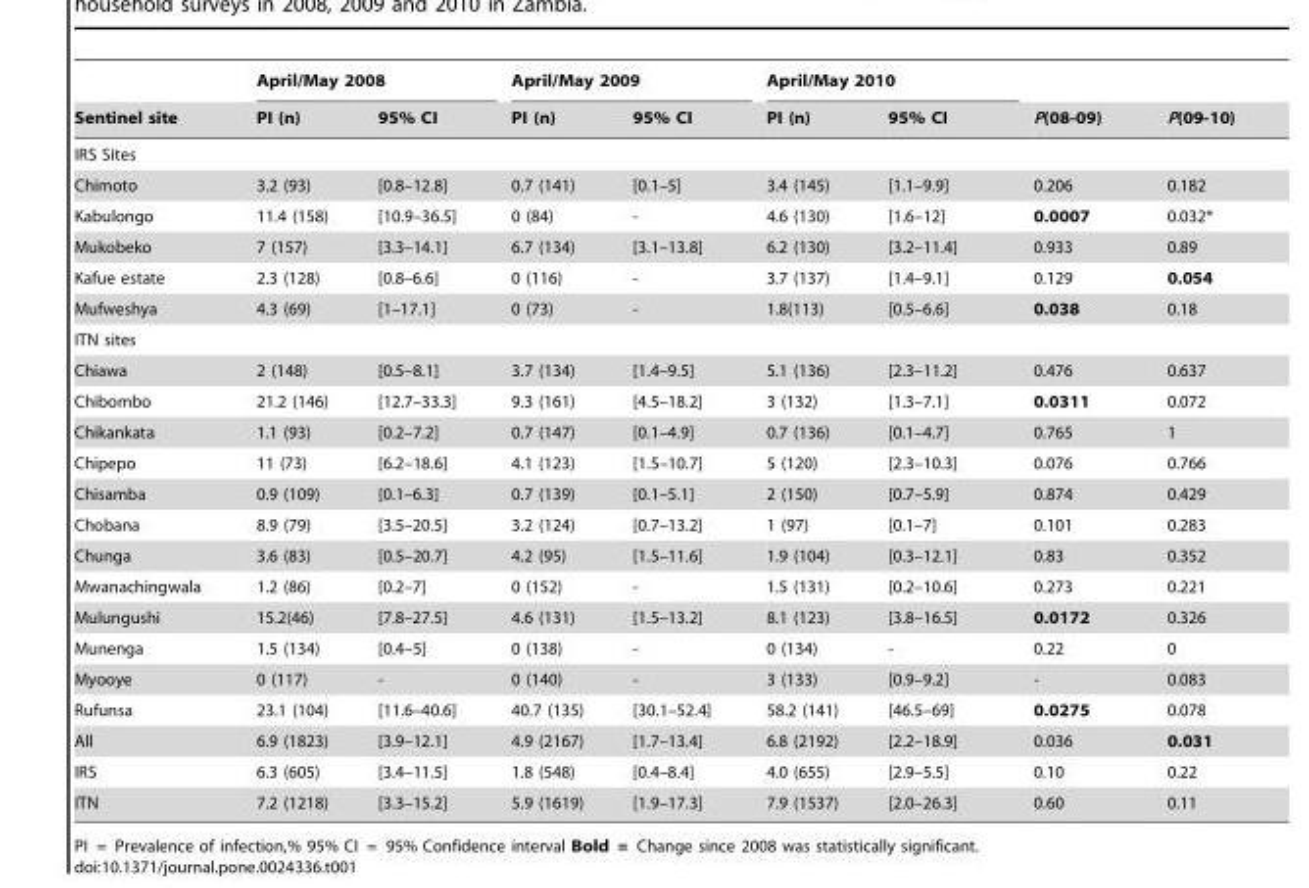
<table><thead><tr><td rowspan="2">Sentinel site</td><td colspan="2">April/May 2008</td><td colspan="2">April/May 2009</td><td colspan="2">April/May 2010</td><td rowspan="2">P(08-09)</td><td rowspan="2">P(09-10)</td></tr><tr><td>PI (n)</td><td>95% CI</td><td>PI (n)</td><td>95% CI</td><td>PI (n)</td><td>95% CI</td></tr></thead><tbody><tr><td colspan="9">IRS Sites</td></tr><tr><td>Chimoto</td><td>3.2 (93)</td><td>[0.8–12.8]</td><td>0.7 (141)</td><td>[0.1–5]</td><td>3.4 (145)</td><td>[1.1–9.9]</td><td>0.206</td><td>0.182</td></tr><tr><td>Kabulongo</td><td>11.4 (158)</td><td>[10.9–36.5]</td><td>0 (84)</td><td>-</td><td>4.6 (130)</td><td>[1.6–12]</td><td>0.0007</td><td>0.032*</td></tr><tr><td>Mukobeko</td><td>7 (157)</td><td>[3.3–14.1]</td><td>6.7 (134)</td><td>[3.1–13.8]</td><td>6.2 (130)</td><td>[3.2–11.4]</td><td>0.933</td><td>0.89</td></tr><tr><td>Kafue estate</td><td>2.3 (128)</td><td>[0.8–6.6]</td><td>0 (116)</td><td>-</td><td>3.7 (137)</td><td>[1.4–9.1]</td><td>0.129</td><td>0.054</td></tr><tr><td>Mufweshya</td><td>4.3 (69)</td><td>[1–17.1]</td><td>0 (73)</td><td>-</td><td>1.8(113)</td><td>[0.5–6.6]</td><td>0.038</td><td>0.18</td></tr><tr><td colspan="9">ITN sites</td></tr><tr><td>Chiawa</td><td>2 (148)</td><td>[0.5–8.1]</td><td>3.7 (134)</td><td>[1.4–9.5]</td><td>5.1 (136)</td><td>[2.3–11.2]</td><td>0.476</td><td>0.637</td></tr><tr><td>Chibombo</td><td>21.2 (146)</td><td>[12.7–33.3]</td><td>9.3 (161)</td><td>[4.5–18.2]</td><td>3 (132)</td><td>[1.3–7.1]</td><td>0.0311</td><td>0.072</td></tr><tr><td>Chikankata</td><td>1.1 (93)</td><td>[0.2–7.2]</td><td>0.7 (147)</td><td>[0.1–4.9]</td><td>0.7 (136)</td><td>[0.1–4.7]</td><td>0.765</td><td>1</td></tr><tr><td>Chipepo</td><td>11 (73)</td><td>[6.2–18.6]</td><td>4.1 (123)</td><td>[1.5–10.7]</td><td>5 (120)</td><td>[2.3–10.3]</td><td>0.076</td><td>0.766</td></tr><tr><td>Chisamba</td><td>0.9 (109)</td><td>[0.1–6.3]</td><td>0.7 (139)</td><td>[0.1–5.1]</td><td>2 (150)</td><td>[0.7–5.9]</td><td>0.874</td><td>0.429</td></tr><tr><td>Chobana</td><td>8.9 (79)</td><td>[3.5–20.5]</td><td>3.2 (124)</td><td>[0.7–13.2]</td><td>1 (97)</td><td>[0.1–7]</td><td>0.101</td><td>0.283</td></tr><tr><td>Chunga</td><td>3.6 (83)</td><td>[0.5–20.7]</td><td>4.2 (95)</td><td>[1.5–11.6]</td><td>1.9 (104)</td><td>[0.3–12.1]</td><td>0.83</td><td>0.352</td></tr><tr><td>Mwanachingwala</td><td>1.2 (86)</td><td>[0.2–7]</td><td>0 (152)</td><td>-</td><td>1.5 (131)</td><td>[0.2–10.6]</td><td>0.273</td><td>0.221</td></tr><tr><td>Mulungushi</td><td>15.2(46)</td><td>[7.8–27.5]</td><td>4.6 (131)</td><td>[1.5–13.2]</td><td>8.1 (123)</td><td>[3.8–16.5]</td><td>0.0172</td><td>0.326</td></tr><tr><td>Munenga</td><td>1.5 (134)</td><td>[0.4–5]</td><td>0 (138)</td><td>-</td><td>0 (134)</td><td>-</td><td>0.22</td><td>0</td></tr><tr><td>Myooye</td><td>0 (117)</td><td>-</td><td>0 (140)</td><td>-</td><td>3 (133)</td><td>[0.9–9.2]</td><td>-</td><td>0.083</td></tr><tr><td>Rufunsa</td><td>23.1 (104)</td><td>[11.6–40.6]</td><td>40.7 (135)</td><td>[30.1–52.4]</td><td>58.2 (141)</td><td>[46.5–69]</td><td>0.0275</td><td>0.078</td></tr><tr><td>All</td><td>6.9 (1823)</td><td>[3.9–12.1]</td><td>4.9 (2167)</td><td>[1.7–13.4]</td><td>6.8 (2192)</td><td>[2.2–18.9]</td><td>0.036</td><td>0.031</td></tr><tr><td>IRS</td><td>6.3 (605)</td><td>[3.4–11.5]</td><td>1.8 (548)</td><td>[0.4–8.4]</td><td>4.0 (655)</td><td>[2.9–5.5]</td><td>0.10</td><td>0.22</td></tr><tr><td>ITN</td><td>7.2 (1218)</td><td>[3.3–15.2]</td><td>5.9 (1619)</td><td>[1.9–17.3]</td><td>7.9 (1537)</td><td>[2.0–26.3]</td><td>0.60</td><td>0.11</td></tr></tbody></table>